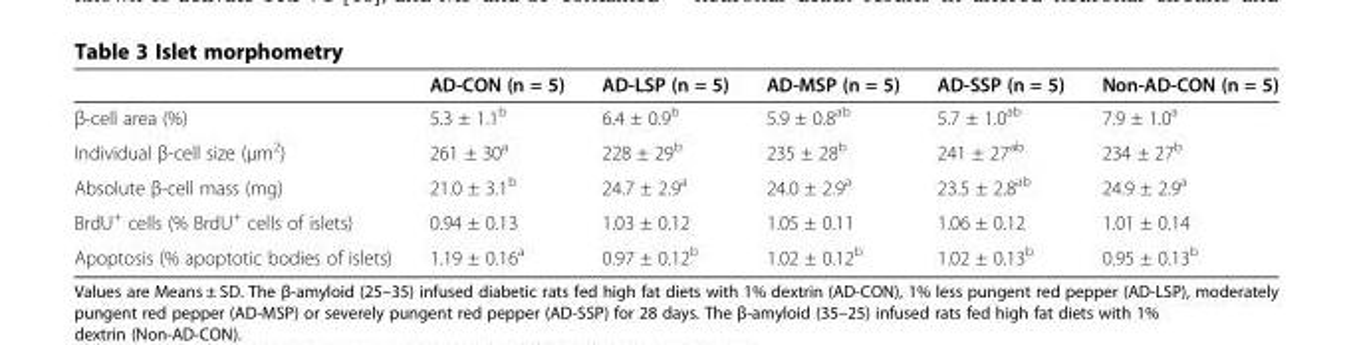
<table><thead><tr><td></td><td>AD-CON (n = 5)</td><td>AD-LSP (n = 5)</td><td>AD-MSP (n = 5)</td><td>AD-SSP (n = 5)</td><td>Non-AD-CON (n = 5)</td></tr></thead><tbody><tr><td>β-cell area (%)</td><td>5.3 ± 1.1<sup>b</sup></td><td>6.4 ± 0.9<sup>b</sup></td><td>5.9 ± 0.8<sup>ab</sup></td><td>5.7 ± 1.0<sup>ab</sup></td><td>7.9 ± 1.0<sup>a</sup></td></tr><tr><td>Individual β-cell size (μm<sup>2</sup>)</td><td>261 ± 30<sup>a</sup></td><td>228 ± 29<sup>b</sup></td><td>235 ± 28<sup>b</sup></td><td>241 ± 27<sup>ab</sup></td><td>234 ± 27<sup>b</sup></td></tr><tr><td>Absolute β-cell mass (mg)</td><td>21.0 ± 3.1<sup>b</sup></td><td>24.7 ± 2.9<sup>a</sup></td><td>24.0 ± 2.9<sup>a</sup></td><td>23.5 ± 2.8<sup>ab</sup></td><td>24.9 ± 2.9<sup>a</sup></td></tr><tr><td>BrdU<sup>+</sup> cells (% BrdU<sup>+</sup> cells of islets)</td><td>0.94 ± 0.13</td><td>1.03 ± 0.12</td><td>1.05 ± 0.11</td><td>1.06 ± 0.12</td><td>1.01 ± 0.14</td></tr><tr><td>Apoptosis (% apoptotic bodies of islets)</td><td>1.19 ± 0.16<sup>a</sup></td><td>0.97 ± 0.12<sup>b</sup></td><td>1.02 ± 0.12<sup>b</sup></td><td>1.02 ± 0.13<sup>b</sup></td><td>0.95 ± 0.13<sup>b</sup></td></tr></tbody></table>